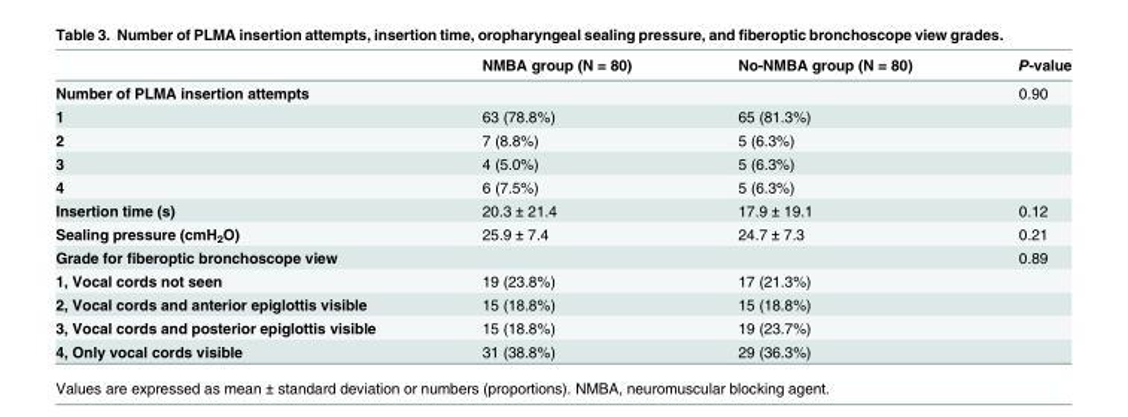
<table><thead><tr><td></td><td>NMBA group (N = 80)</td><td>No-NMBA group (N = 80)</td><td>P-value</td></tr></thead><tbody><tr><td>Number of PLMA insertion attempts</td><td></td><td></td><td>0.90</td></tr><tr><td>1</td><td>63 (78.8%)</td><td>65 (81.3%)</td><td></td></tr><tr><td>2</td><td>7 (8.8%)</td><td>5 (6.3%)</td><td></td></tr><tr><td>3</td><td>4 (5.0%)</td><td>5 (6.3%)</td><td></td></tr><tr><td>4</td><td>6 (7.5%)</td><td>5 (6.3%)</td><td></td></tr><tr><td>Insertion time (s)</td><td>20.3 ± 21.4</td><td>17.9 ± 19.1</td><td>0.12</td></tr><tr><td>Sealing pressure (cmH<sub>2</sub>O)</td><td>25.9 ± 7.4</td><td>24.7 ± 7.3</td><td>0.21</td></tr><tr><td>Grade for fiberoptic bronchoscope view</td><td></td><td></td><td>0.89</td></tr><tr><td>1, Vocal cords not seen</td><td>19 (23.8%)</td><td>17 (21.3%)</td><td></td></tr><tr><td>2, Vocal cords and anterior epiglottis visible</td><td>15 (18.8%)</td><td>15 (18.8%)</td><td></td></tr><tr><td>3, Vocal cords and posterior epiglottis visible</td><td>15 (18.8%)</td><td>19 (23.7%)</td><td></td></tr><tr><td>4, Only vocal cords visible</td><td>31 (38.8%)</td><td>29 (36.3%)</td><td></td></tr></tbody></table>